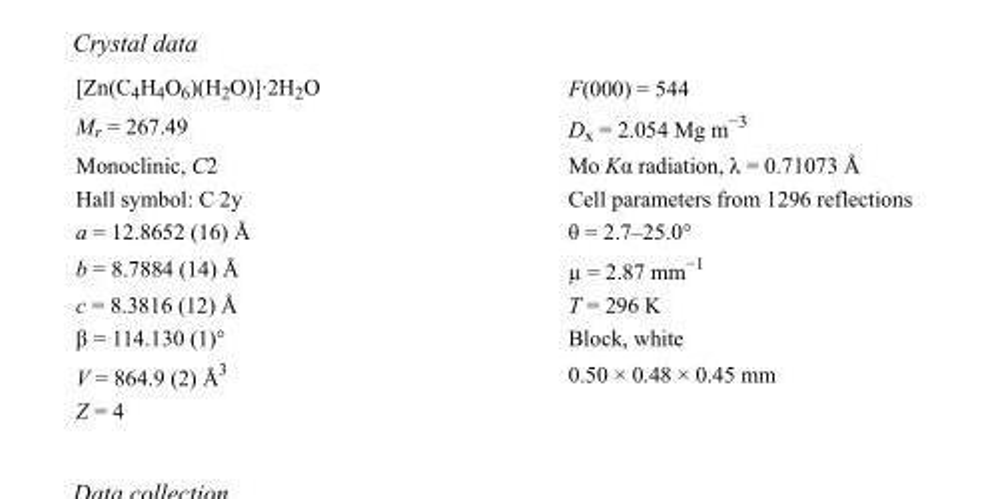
<table><tbody><tr><td>[Zn(C<sub>4</sub>H<sub>4</sub>O<sub>6</sub>)(H<sub>2</sub>O)]·2H<sub>2</sub>O</td><td>F(000) = 544</td></tr><tr><td>M<sub>r</sub> = 267.49</td><td>D<sub>x</sub> = 2.054 Mg m<sup>−3</sup></td></tr><tr><td>Monoclinic, C2</td><td>Mo Kα radiation, λ = 0.71073 Å</td></tr><tr><td>Hall symbol: C 2y</td><td>Cell parameters from 1296 reflections</td></tr><tr><td>a = 12.8652 (16) Å</td><td>θ = 2.7–25.0°</td></tr><tr><td>b = 8.7884 (14) Å</td><td>µ = 2.87 mm<sup>−1</sup></td></tr><tr><td>c = 8.3816 (12) Å</td><td>T = 296 K</td></tr><tr><td>β = 114.130 (1)°</td><td>Block, white</td></tr><tr><td>V = 864.9 (2) Å<sup>3</sup></td><td>0.50 × 0.48 × 0.45 mm</td></tr><tr><td>Z = 4</td><td></td></tr></tbody></table>